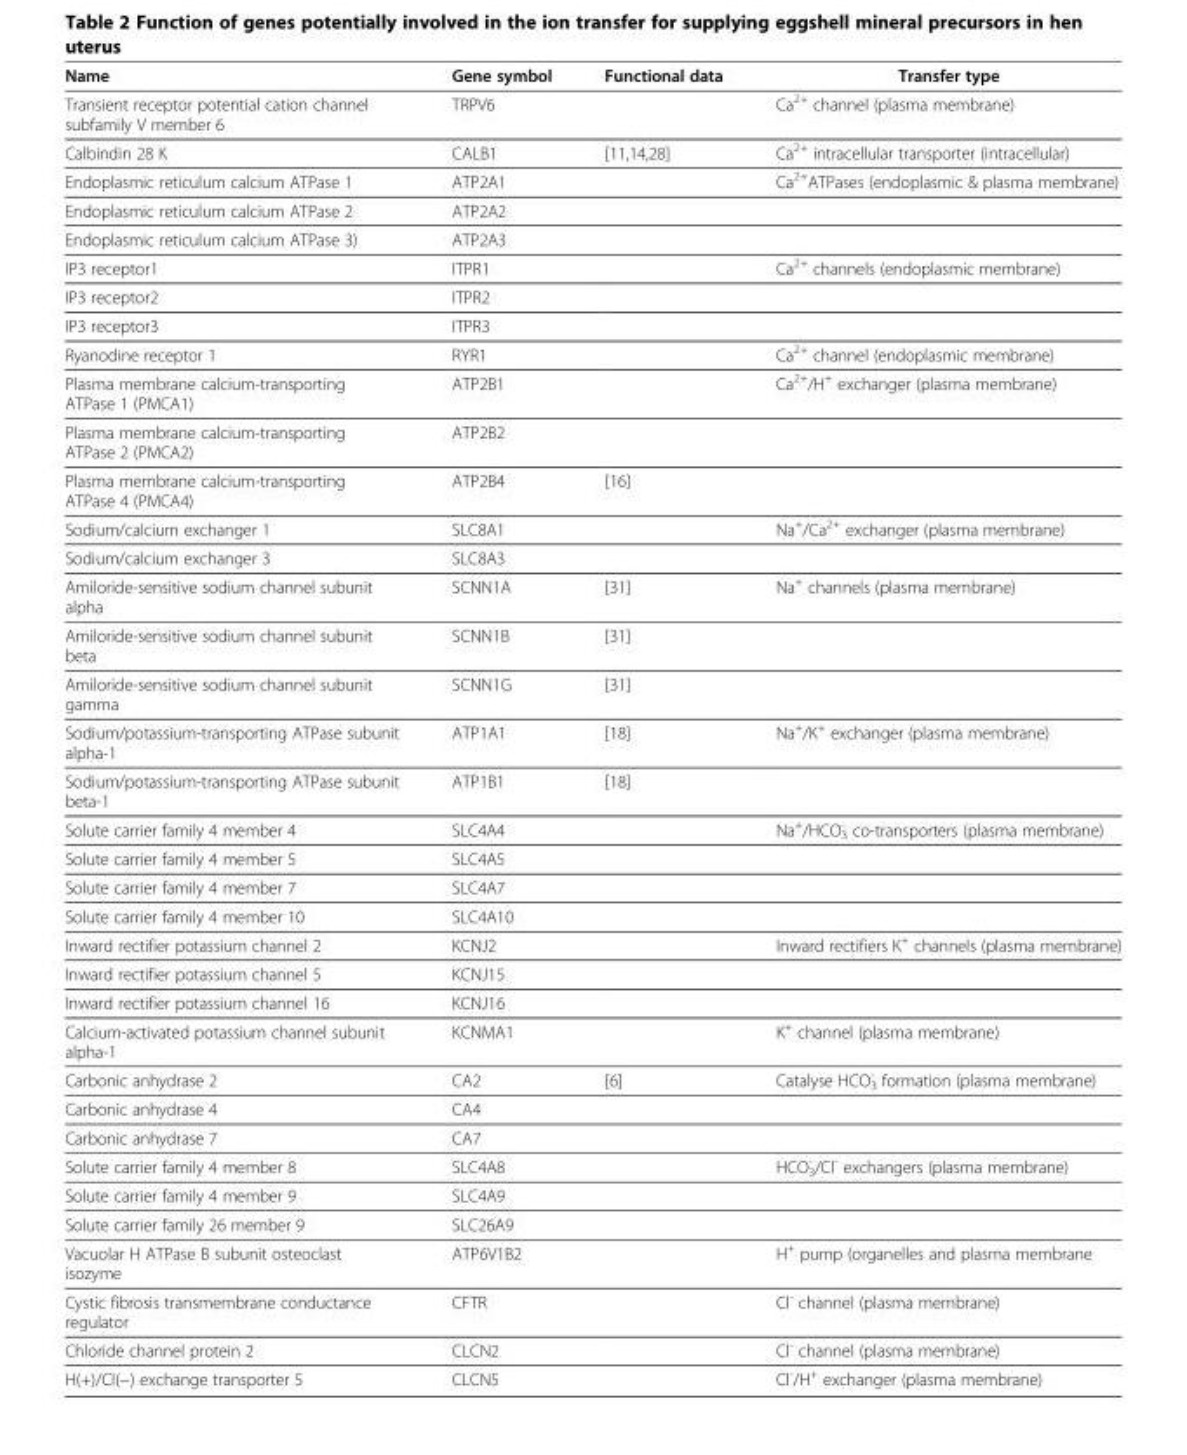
<table><thead><tr><td>Name</td><td>Gene symbol</td><td>Functional data</td><td>Transfer type</td></tr></thead><tbody><tr><td>Transient receptor potential cation channel subfamily V member 6</td><td>TRPV6</td><td></td><td>Ca<sup>2+</sup> channel (plasma membrane)</td></tr><tr><td>Calbindin 28 K</td><td>CALB1</td><td>[11,14,28]</td><td>Ca<sup>2+</sup> intracellular transporter (intracellular)</td></tr><tr><td>Endoplasmic reticulum calcium ATPase 1</td><td>ATP2A1</td><td></td><td>Ca<sup>2+</sup>ATPases (endoplasmic &amp; plasma membrane)</td></tr><tr><td>Endoplasmic reticulum calcium ATPase 2</td><td>ATP2A2</td><td></td><td></td></tr><tr><td>Endoplasmic reticulum calcium ATPase 3)</td><td>ATP2A3</td><td></td><td></td></tr><tr><td>IP3 receptor1</td><td>ITPR1</td><td></td><td>Ca<sup>2+</sup> channels (endoplasmic membrane)</td></tr><tr><td>IP3 receptor2</td><td>ITPR2</td><td></td><td></td></tr><tr><td>IP3 receptor3</td><td>ITPR3</td><td></td><td></td></tr><tr><td>Ryanodine receptor 1</td><td>RYR1</td><td></td><td>Ca<sup>2+</sup> channel (endoplasmic membrane)</td></tr><tr><td>Plasma membrane calcium-transporting ATPase 1 (PMCA1)</td><td>ATP2B1</td><td></td><td>Ca<sup>2+</sup>/H<sup>+</sup> exchanger (plasma membrane)</td></tr><tr><td>Plasma membrane calcium-transporting ATPase 2 (PMCA2)</td><td>ATP2B2</td><td></td><td></td></tr><tr><td>Plasma membrane calcium-transporting ATPase 4 (PMCA4)</td><td>ATP2B4</td><td>[16]</td><td></td></tr><tr><td>Sodium/calcium exchanger 1</td><td>SLC8A1</td><td></td><td>Na<sup>+</sup>/Ca<sup>2+</sup> exchanger (plasma membrane)</td></tr><tr><td>Sodium/calcium exchanger 3</td><td>SLC8A3</td><td></td><td></td></tr><tr><td>Amiloride-sensitive sodium channel subunit alpha</td><td>SCNN1A</td><td>[31]</td><td>Na<sup>+</sup> channels (plasma membrane)</td></tr><tr><td>Amiloride-sensitive sodium channel subunit beta</td><td>SCNN1B</td><td>[31]</td><td></td></tr><tr><td>Amiloride-sensitive sodium channel subunit gamma</td><td>SCNN1G</td><td>[31]</td><td></td></tr><tr><td>Sodium/potassium-transporting ATPase subunit alpha-1</td><td>ATP1A1</td><td>[18]</td><td>Na<sup>+</sup>/K<sup>+</sup> exchanger (plasma membrane)</td></tr><tr><td>Sodium/potassium-transporting ATPase subunit beta-1</td><td>ATP1B1</td><td>[18]</td><td></td></tr><tr><td>Solute carrier family 4 member 4</td><td>SLC4A4</td><td></td><td>Na<sup>+</sup>/HCO<sub>3</sub> <sup>-</sup> co-transporters (plasma membrane)</td></tr><tr><td>Solute carrier family 4 member 5</td><td>SLC4A5</td><td></td><td></td></tr><tr><td>Solute carrier family 4 member 7</td><td>SLC4A7</td><td></td><td></td></tr><tr><td>Solute carrier family 4 member 10</td><td>SLC4A10</td><td></td><td></td></tr><tr><td>Inward rectifier potassium channel 2</td><td>KCNJ2</td><td></td><td>Inward rectifiers K<sup>+</sup> channels (plasma membrane)</td></tr><tr><td>Inward rectifier potassium channel 5</td><td>KCNJ15</td><td></td><td></td></tr><tr><td>Inward rectifier potassium channel 16</td><td>KCNJ16</td><td></td><td></td></tr><tr><td>Calcium-activated potassium channel subunit alpha-1</td><td>KCNMA1</td><td></td><td>K<sup>+</sup> channel (plasma membrane)</td></tr><tr><td>Carbonic anhydrase 2</td><td>CA2</td><td>[6]</td><td>Catalyse HCO<sub>3</sub> <sup>-</sup> formation (plasma membrane)</td></tr><tr><td>Carbonic anhydrase 4</td><td>CA4</td><td></td><td></td></tr><tr><td>Carbonic anhydrase 7</td><td>CA7</td><td></td><td></td></tr><tr><td>Solute carrier family 4 member 8</td><td>SLC4A8</td><td></td><td>HCO<sub>3</sub> <sup>-</sup>/Cl<sup>-</sup> exchangers (plasma membrane)</td></tr><tr><td>Solute carrier family 4 member 9</td><td>SLC4A9</td><td></td><td></td></tr><tr><td>Solute carrier family 26 member 9</td><td>SLC26A9</td><td></td><td></td></tr><tr><td>Vacuolar H ATPase B subunit osteoclast isozyme</td><td>ATP6V1B2</td><td></td><td>H<sup>+</sup> pump (organelles and plasma membrane</td></tr><tr><td>Cystic fibrosis transmembrane conductance regulator</td><td>CFTR</td><td></td><td>Cl<sup>-</sup> channel (plasma membrane)</td></tr><tr><td>Chloride channel protein 2</td><td>CLCN2</td><td></td><td>Cl<sup>-</sup> channel (plasma membrane)</td></tr><tr><td>H(+)/Cl(−) exchange transporter 5</td><td>CLCN5</td><td></td><td>Cl<sup>-</sup>/H<sup>+</sup> exchanger (plasma membrane)</td></tr></tbody></table>